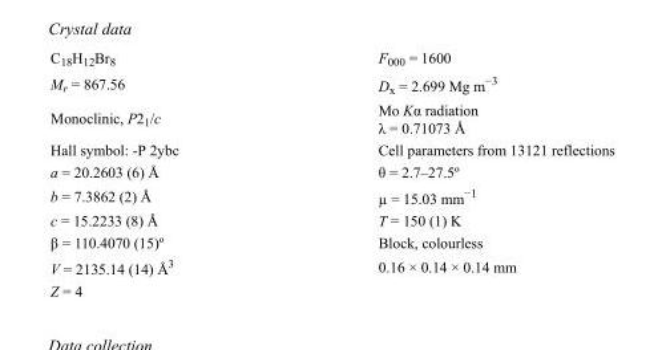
<table><tbody><tr><td>C<sub>18</sub>H<sub>12</sub>Br<sub>8</sub></td><td>F<sub>000</sub> = 1600</td></tr><tr><td>M<sub>r</sub> = 867.56</td><td>D<sub>x</sub> = 2.699 Mg m<sup>−3</sup></td></tr><tr><td>Monoclinic, P2<sub>1</sub>/c</td><td>Mo Kα radiation λ = 0.71073 Å</td></tr><tr><td>Hall symbol: -P 2ybc</td><td>Cell parameters from 13121 reflections</td></tr><tr><td>a = 20.2603 (6) Å</td><td>θ = 2.7–27.5º</td></tr><tr><td>b = 7.3862 (2) Å</td><td>µ = 15.03 mm<sup>−1</sup></td></tr><tr><td>c = 15.2233 (8) Å</td><td>T = 150 (1) K</td></tr><tr><td>β = 110.4070 (15)º</td><td>Block, colourless</td></tr><tr><td>V = 2135.14 (14) Å<sup>3</sup></td><td>0.16 × 0.14 × 0.14 mm</td></tr><tr><td>Z = 4</td><td></td></tr></tbody></table>